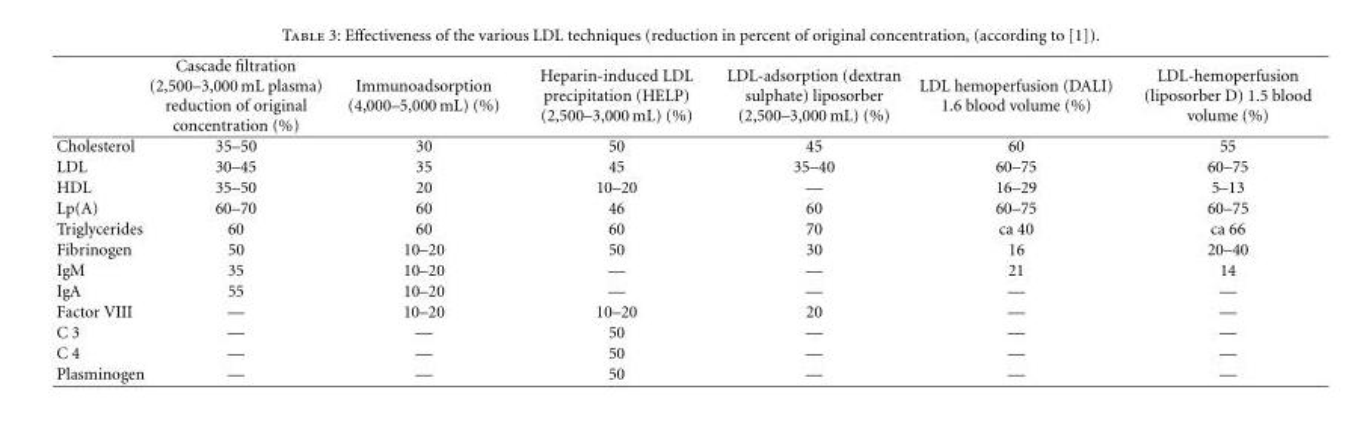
<table><thead><tr><td></td><td>Cascade filtration (2,500–3,000 mL plasma) reduction of original concentration (%)</td><td>Immunoadsorption (4,000–5,000 mL) (%)</td><td>Heparin-induced LDL precipitation (HELP) (2,500–3,000 mL) (%)</td><td>LDL-adsorption (dextran sulphate) liposorber (2,500–3,000 mL) (%)</td><td>LDL hemoperfusion (DALI) 1.6 blood volume (%)</td><td>LDL-hemoperfusion (liposorber D) 1.5 blood volume (%)</td></tr></thead><tbody><tr><td>Cholesterol</td><td>35–50</td><td>30</td><td>50</td><td>45</td><td>60</td><td>55</td></tr><tr><td>LDL</td><td>30–45</td><td>35</td><td>45</td><td>35–40</td><td>60–75</td><td>60–75</td></tr><tr><td>HDL</td><td>35–50</td><td>20</td><td>10–20</td><td>—</td><td>16–29</td><td>5–13</td></tr><tr><td>Lp(A)</td><td>60–70</td><td>60</td><td>46</td><td>60</td><td>60–75</td><td>60–75</td></tr><tr><td>Triglycerides</td><td>60</td><td>60</td><td>60</td><td>70</td><td>ca 40</td><td>ca 66</td></tr><tr><td>Fibrinogen</td><td>50</td><td>10–20</td><td>50</td><td>30</td><td>16</td><td>20–40</td></tr><tr><td>IgM</td><td>35</td><td>10–20</td><td>—</td><td>—</td><td>21</td><td>14</td></tr><tr><td>IgA</td><td>55</td><td>10–20</td><td>—</td><td>—</td><td>—</td><td>—</td></tr><tr><td>Factor VIII</td><td>—</td><td>10–20</td><td>10–20</td><td>20</td><td>—</td><td>—</td></tr><tr><td>C 3</td><td>—</td><td>—</td><td>50</td><td>—</td><td>—</td><td>—</td></tr><tr><td>C 4</td><td>—</td><td>—</td><td>50</td><td>—</td><td>—</td><td>—</td></tr><tr><td>Plasminogen</td><td>—</td><td>—</td><td>50</td><td>—</td><td>—</td><td>—</td></tr></tbody></table>